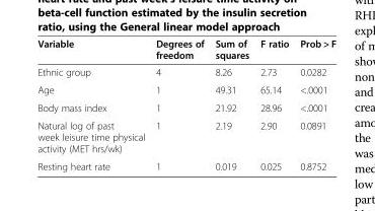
<table><thead><tr><td>Variable</td><td>Degrees of freedom</td><td>Sum of squares</td><td>F ratio</td><td>Prob &gt; F</td></tr></thead><tbody><tr><td>Ethnic group</td><td>4</td><td>8.26</td><td>2.73</td><td>0.0282</td></tr><tr><td>Age</td><td>1</td><td>49.31</td><td>65.14</td><td>&lt;.0001</td></tr><tr><td>Body mass index</td><td>1</td><td>21.92</td><td>28.96</td><td>&lt;.0001</td></tr><tr><td>Natural log of past week leisure time physical activity (MET hrs/wk)</td><td>1</td><td>2.19</td><td>2.90</td><td>0.0891</td></tr><tr><td>Resting heart rate</td><td>1</td><td>0.019</td><td>0.025</td><td>0.8752</td></tr></tbody></table>